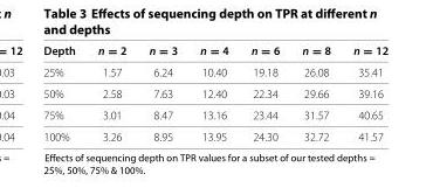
<table><thead><tr><td>Depth</td><td>n = 2</td><td>n = 3</td><td>n = 4</td><td>n = 6</td><td>n = 8</td><td>n = 12</td></tr></thead><tbody><tr><td>25%</td><td>1.57</td><td>6.24</td><td>10.40</td><td>19.18</td><td>26.08</td><td>35.41</td></tr><tr><td>50%</td><td>2.58</td><td>7.63</td><td>12.40</td><td>22.34</td><td>29.66</td><td>39.16</td></tr><tr><td>75%</td><td>3.01</td><td>8.47</td><td>13.16</td><td>23.44</td><td>31.57</td><td>40.65</td></tr><tr><td>100%</td><td>3.26</td><td>8.95</td><td>13.95</td><td>24.30</td><td>32.72</td><td>41.57</td></tr></tbody></table>